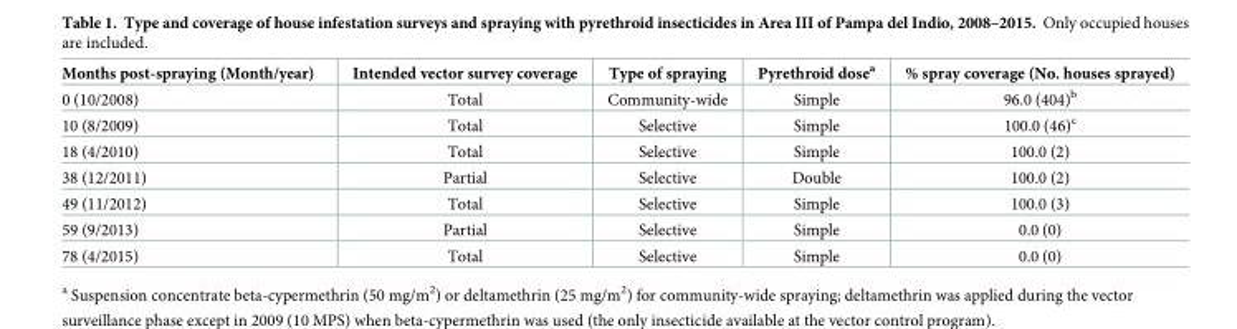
<table><thead><tr><td>Months post-spraying (Month/year)</td><td>Intended vector survey coverage</td><td>Type of spraying</td><td>Pyrethroid dose<sup>a</sup></td><td>% spray coverage (No. houses sprayed)</td></tr></thead><tbody><tr><td>0 (10/2008)</td><td>Total</td><td>Community-wide</td><td>Simple</td><td>96.0 (404)<sup>b</sup></td></tr><tr><td>10 (8/2009)</td><td>Total</td><td>Selective</td><td>Simple</td><td>100.0 (46)<sup>c</sup></td></tr><tr><td>18 (4/2010)</td><td>Total</td><td>Selective</td><td>Simple</td><td>100.0 (2)</td></tr><tr><td>38 (12/2011)</td><td>Partial</td><td>Selective</td><td>Double</td><td>100.0 (2)</td></tr><tr><td>49 (11/2012)</td><td>Total</td><td>Selective</td><td>Simple</td><td>100.0 (3)</td></tr><tr><td>59 (9/2013)</td><td>Partial</td><td>Selective</td><td>Simple</td><td>0.0 (0)</td></tr><tr><td>78 (4/2015)</td><td>Total</td><td>Selective</td><td>Simple</td><td>0.0 (0)</td></tr></tbody></table>